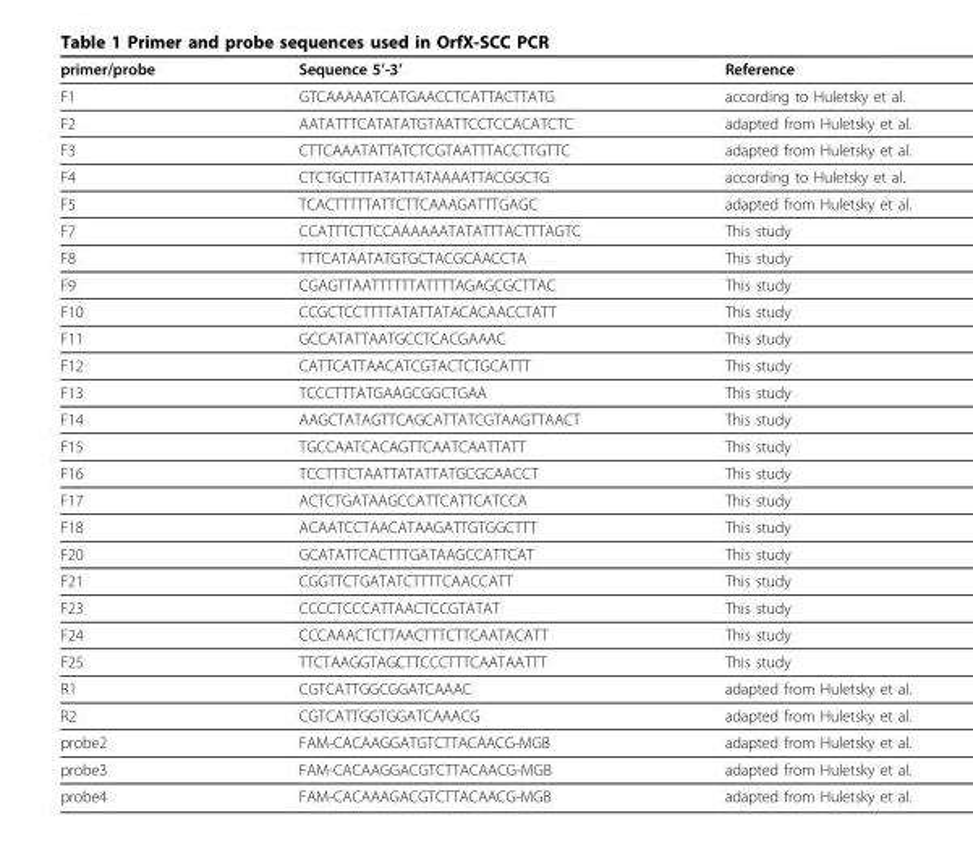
<table><thead><tr><td>primer/probe</td><td>Sequence 5’-3’</td><td>Reference</td></tr></thead><tbody><tr><td>F1</td><td>GTCAAAAATCATGAACCTCATTACTTATG</td><td>according to Huletsky et al.</td></tr><tr><td>F2</td><td>AATATTTCATATATGTAATTCCTCCACATCTC</td><td>adapted from Huletsky et al.</td></tr><tr><td>F3</td><td>CTTCAAATATTATCTCGTAATTTACCTTGTTC</td><td>adapted from Huletsky et al.</td></tr><tr><td>F4</td><td>CTCTGCTTTATATTATAAAATTACGGCTG</td><td>according to Huletsky et al.</td></tr><tr><td>F5</td><td>TCACTTTTTATTCTTCAAAGATTTGAGC</td><td>adapted from Huletsky et al.</td></tr><tr><td>F7</td><td>CCATTTCTTCCAAAAAATATATTTACTTTAGTC</td><td>This study</td></tr><tr><td>F8</td><td>TTTCATAATATGTGCTACGCAACCTA</td><td>This study</td></tr><tr><td>F9</td><td>CGAGTTAATTTTTTATTTTAGAGCGCTTAC</td><td>This study</td></tr><tr><td>F10</td><td>CCGCTCCTTTTATATTATACACAACCTATT</td><td>This study</td></tr><tr><td>F11</td><td>GCCATATTAATGCCTCACGAAAC</td><td>This study</td></tr><tr><td>F12</td><td>CATTCATTAACATCGTACTCTGCATTT</td><td>This study</td></tr><tr><td>F13</td><td>TCCCTTTATGAAGCGGCTGAA</td><td>This study</td></tr><tr><td>F14</td><td>AAGCTATAGTTCAGCATTATCGTAAGTTAACT</td><td>This study</td></tr><tr><td>F15</td><td>TGCCAATCACAGTTCAATCAATTATT</td><td>This study</td></tr><tr><td>F16</td><td>TCCTTTCTAATTATATTATGCGCAACCT</td><td>This study</td></tr><tr><td>F17</td><td>ACTCTGATAAGCCATTCATTCATCCA</td><td>This study</td></tr><tr><td>F18</td><td>ACAATCCTAACATAAGATTGTGGCTTT</td><td>This study</td></tr><tr><td>F20</td><td>GCATATTCACTTTGATAAGCCATTCAT</td><td>This study</td></tr><tr><td>F21</td><td>CGGTTCTGATATCTTTTCAACCATT</td><td>This study</td></tr><tr><td>F23</td><td>CCCCTCCCATTAACTCCGTATAT</td><td>This study</td></tr><tr><td>F24</td><td>CCCAAACTCTTAACTTTCTTCAATACATT</td><td>This study</td></tr><tr><td>F25</td><td>TTCTAAGGTAGCTTCCCTTTCAATAATTT</td><td>This study</td></tr><tr><td>R1</td><td>CGTCATTGGCGGATCAAAC</td><td>adapted from Huletsky et al.</td></tr><tr><td>R2</td><td>CGTCATTGGTGGATCAAACG</td><td>adapted from Huletsky et al.</td></tr><tr><td>probe2</td><td>FAM-CACAAGGATGTCTTACAACG-MGB</td><td>adapted from Huletsky et al.</td></tr><tr><td>probe3</td><td>FAM-CACAAGGACGTCTTACAACG-MGB</td><td>adapted from Huletsky et al.</td></tr><tr><td>probe4</td><td>FAM-CACAAAGACGTCTTACAACG-MGB</td><td>adapted from Huletsky et al.</td></tr></tbody></table>